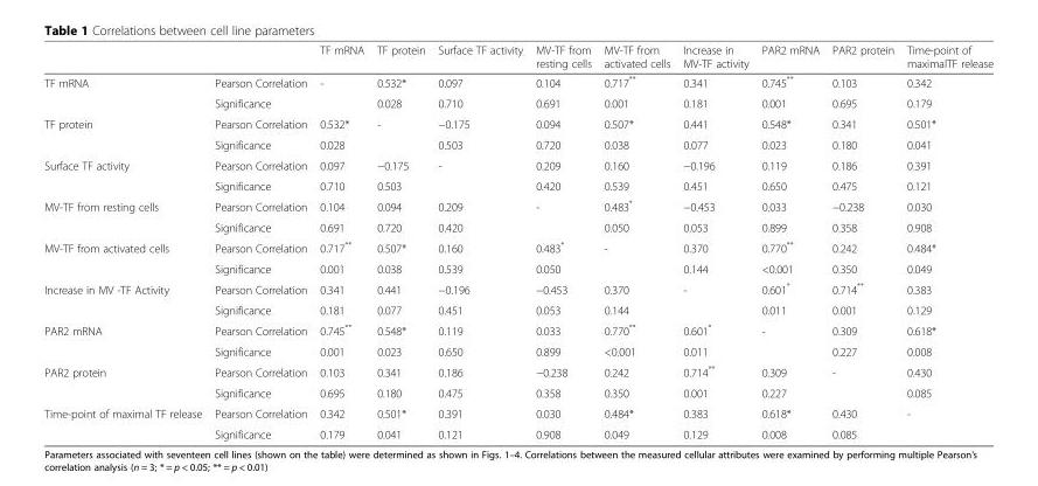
<table><thead><tr><td></td><td></td><td>TF mRNA</td><td>TF protein</td><td>Surface TF activity</td><td>MV-TF from resting cells</td><td>MV-TF from activated cells</td><td>Increase in MV-TF activity</td><td>PAR2 mRNA</td><td>PAR2 protein</td><td>Time-point of maximalTF release</td></tr></thead><tbody><tr><td rowspan="2">TF mRNA</td><td>Pearson Correlation</td><td>-</td><td>0.532*</td><td>0.097</td><td>0.104</td><td>0.717**</td><td>0.341</td><td>0.745**</td><td>0.103</td><td>0.342</td></tr><tr><td>Significance</td><td></td><td>0.028</td><td>0.710</td><td>0.691</td><td>0.001</td><td>0.181</td><td>0.001</td><td>0.695</td><td>0.179</td></tr><tr><td rowspan="2">TF protein</td><td>Pearson Correlation</td><td>0.532*</td><td>-</td><td>−0.175</td><td>0.094</td><td>0.507*</td><td>0.441</td><td>0.548*</td><td>0.341</td><td>0.501*</td></tr><tr><td>Significance</td><td>0.028</td><td></td><td>0.503</td><td>0.720</td><td>0.038</td><td>0.077</td><td>0.023</td><td>0.180</td><td>0.041</td></tr><tr><td rowspan="2">Surface TF activity</td><td>Pearson Correlation</td><td>0.097</td><td>−0.175</td><td>-</td><td>0.209</td><td>0.160</td><td>−0.196</td><td>0.119</td><td>0.186</td><td>0.391</td></tr><tr><td>Significance</td><td>0.710</td><td>0.503</td><td></td><td>0.420</td><td>0.539</td><td>0.451</td><td>0.650</td><td>0.475</td><td>0.121</td></tr><tr><td rowspan="2">MV-TF from resting cells</td><td>Pearson Correlation</td><td>0.104</td><td>0.094</td><td>0.209</td><td>-</td><td>0.483*</td><td>−0.453</td><td>0.033</td><td>−0.238</td><td>0.030</td></tr><tr><td>Significance</td><td>0.691</td><td>0.720</td><td>0.420</td><td></td><td>0.050</td><td>0.053</td><td>0.899</td><td>0.358</td><td>0.908</td></tr><tr><td rowspan="2">MV-TF from activated cells</td><td>Pearson Correlation</td><td>0.717**</td><td>0.507*</td><td>0.160</td><td>0.483*</td><td>-</td><td>0.370</td><td>0.770**</td><td>0.242</td><td>0.484*</td></tr><tr><td>Significance</td><td>0.001</td><td>0.038</td><td>0.539</td><td>0.050</td><td></td><td>0.144</td><td>&lt;0.001</td><td>0.350</td><td>0.049</td></tr><tr><td rowspan="2">Increase in MV -TF Activity</td><td>Pearson Correlation</td><td>0.341</td><td>0.441</td><td>−0.196</td><td>−0.453</td><td>0.370</td><td>-</td><td>0.601*</td><td>0.714**</td><td>0.383</td></tr><tr><td>Significance</td><td>0.181</td><td>0.077</td><td>0.451</td><td>0.053</td><td>0.144</td><td></td><td>0.011</td><td>0.001</td><td>0.129</td></tr><tr><td rowspan="2">PAR2 mRNA</td><td>Pearson Correlation</td><td>0.745**</td><td>0.548*</td><td>0.119</td><td>0.033</td><td>0.770**</td><td>0.601*</td><td>-</td><td>0.309</td><td>0.618*</td></tr><tr><td>Significance</td><td>0.001</td><td>0.023</td><td>0.650</td><td>0.899</td><td>&lt;0.001</td><td>0.011</td><td></td><td>0.227</td><td>0.008</td></tr><tr><td rowspan="2">PAR2 protein</td><td>Pearson Correlation</td><td>0.103</td><td>0.341</td><td>0.186</td><td>−0.238</td><td>0.242</td><td>0.714**</td><td>0.309</td><td>-</td><td>0.430</td></tr><tr><td>Significance</td><td>0.695</td><td>0.180</td><td>0.475</td><td>0.358</td><td>0.350</td><td>0.001</td><td>0.227</td><td></td><td>0.085</td></tr><tr><td rowspan="2">Time-point of maximal TF release</td><td>Pearson Correlation</td><td>0.342</td><td>0.501*</td><td>0.391</td><td>0.030</td><td>0.484*</td><td>0.383</td><td>0.618*</td><td>0.430</td><td>-</td></tr><tr><td>Significance</td><td>0.179</td><td>0.041</td><td>0.121</td><td>0.908</td><td>0.049</td><td>0.129</td><td>0.008</td><td>0.085</td><td></td></tr></tbody></table>